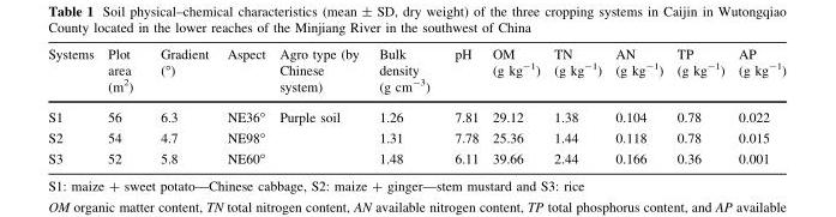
<table><thead><tr><td>Systems</td><td>Plot area (m<sup>2</sup>)</td><td>Gradient (°)</td><td>Aspect</td><td>Agro type (by Chinese system)</td><td>Bulk density (g cm<sup>-3</sup>)</td><td>pH</td><td>OM (g kg<sup>-1</sup>)</td><td>TN (g kg<sup>-1</sup>)</td><td>AN (g kg<sup>-1</sup>)</td><td>TP (g kg<sup>-1</sup>)</td><td>AP (g kg<sup>-1</sup>)</td></tr></thead><tbody><tr><td>S1</td><td>56</td><td>6.3</td><td>NE36°</td><td rowspan="3">Purple soil</td><td>1.26</td><td>7.81</td><td>29.12</td><td>1.38</td><td>0.104</td><td>0.78</td><td>0.022</td></tr><tr><td>S2</td><td>54</td><td>4.7</td><td>NE98°</td><td>1.31</td><td>7.78</td><td>25.36</td><td>1.44</td><td>0.118</td><td>0.78</td><td>0.015</td></tr><tr><td>S3</td><td>52</td><td>5.8</td><td>NE60°</td><td>1.48</td><td>6.11</td><td>39.66</td><td>2.44</td><td>0.166</td><td>0.36</td><td>0.001</td></tr></tbody></table>